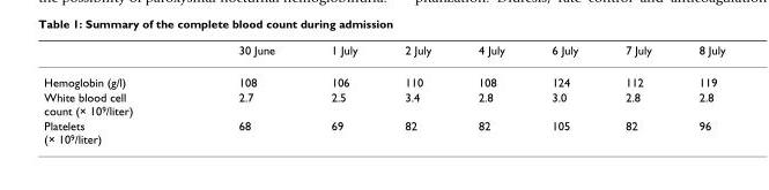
<table><thead><tr><td></td><td>30 June</td><td>1 July</td><td>2 July</td><td>4 July</td><td>6 July</td><td>7 July</td><td>8 July</td></tr></thead><tbody><tr><td>Hemoglobin (g/l)</td><td>108</td><td>106</td><td>110</td><td>108</td><td>124</td><td>112</td><td>119</td></tr><tr><td>White blood cell count (× 10<sup>9</sup>/liter)</td><td>2.7</td><td>2.5</td><td>3.4</td><td>2.8</td><td>3.0</td><td>2.8</td><td>2.8</td></tr><tr><td>Platelets (× 10<sup>9</sup>/liter)</td><td>68</td><td>69</td><td>82</td><td>82</td><td>105</td><td>82</td><td>96</td></tr></tbody></table>